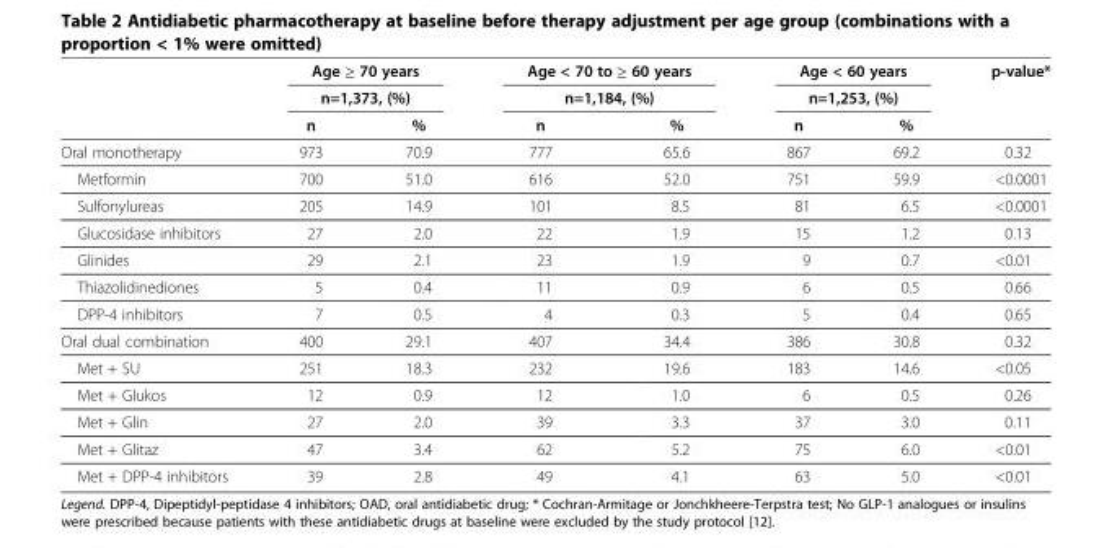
<table><thead><tr><td rowspan="3"></td><td rowspan="2" colspan="2">Age ≥ 70 years n=1,373, (%)</td><td rowspan="2" colspan="2">Age &lt; 70 to ≥ 60 years n=1,184, (%)</td><td rowspan="2" colspan="2">Age &lt; 60 years n=1,253, (%)</td><td rowspan="3">p-value*</td></tr><tr></tr><tr><td>n</td><td>%</td><td>n</td><td>%</td><td>n</td><td>%</td></tr></thead><tbody><tr><td>Oral monotherapy</td><td>973</td><td>70.9</td><td>777</td><td>65.6</td><td>867</td><td>69.2</td><td>0.32</td></tr><tr><td>Metformin</td><td>700</td><td>51.0</td><td>616</td><td>52.0</td><td>751</td><td>59.9</td><td>&lt;0.0001</td></tr><tr><td>Sulfonylureas</td><td>205</td><td>14.9</td><td>101</td><td>8.5</td><td>81</td><td>6.5</td><td>&lt;0.0001</td></tr><tr><td>Glucosidase inhibitors</td><td>27</td><td>2.0</td><td>22</td><td>1.9</td><td>15</td><td>1.2</td><td>0.13</td></tr><tr><td>Glinides</td><td>29</td><td>2.1</td><td>23</td><td>1.9</td><td>9</td><td>0.7</td><td>&lt;0.01</td></tr><tr><td>Thiazolidinediones</td><td>5</td><td>0.4</td><td>11</td><td>0.9</td><td>6</td><td>0.5</td><td>0.66</td></tr><tr><td>DPP-4 inhibitors</td><td>7</td><td>0.5</td><td>4</td><td>0.3</td><td>5</td><td>0.4</td><td>0.65</td></tr><tr><td>Oral dual combination</td><td>400</td><td>29.1</td><td>407</td><td>34.4</td><td>386</td><td>30.8</td><td>0.32</td></tr><tr><td>Met + SU</td><td>251</td><td>18.3</td><td>232</td><td>19.6</td><td>183</td><td>14.6</td><td>&lt;0.05</td></tr><tr><td>Met + Glukos</td><td>12</td><td>0.9</td><td>12</td><td>1.0</td><td>6</td><td>0.5</td><td>0.26</td></tr><tr><td>Met + Glin</td><td>27</td><td>2.0</td><td>39</td><td>3.3</td><td>37</td><td>3.0</td><td>0.11</td></tr><tr><td>Met + Glitaz</td><td>47</td><td>3.4</td><td>62</td><td>5.2</td><td>75</td><td>6.0</td><td>&lt;0.01</td></tr><tr><td>Met + DPP-4 inhibitors</td><td>39</td><td>2.8</td><td>49</td><td>4.1</td><td>63</td><td>5.0</td><td>&lt;0.01</td></tr></tbody></table>